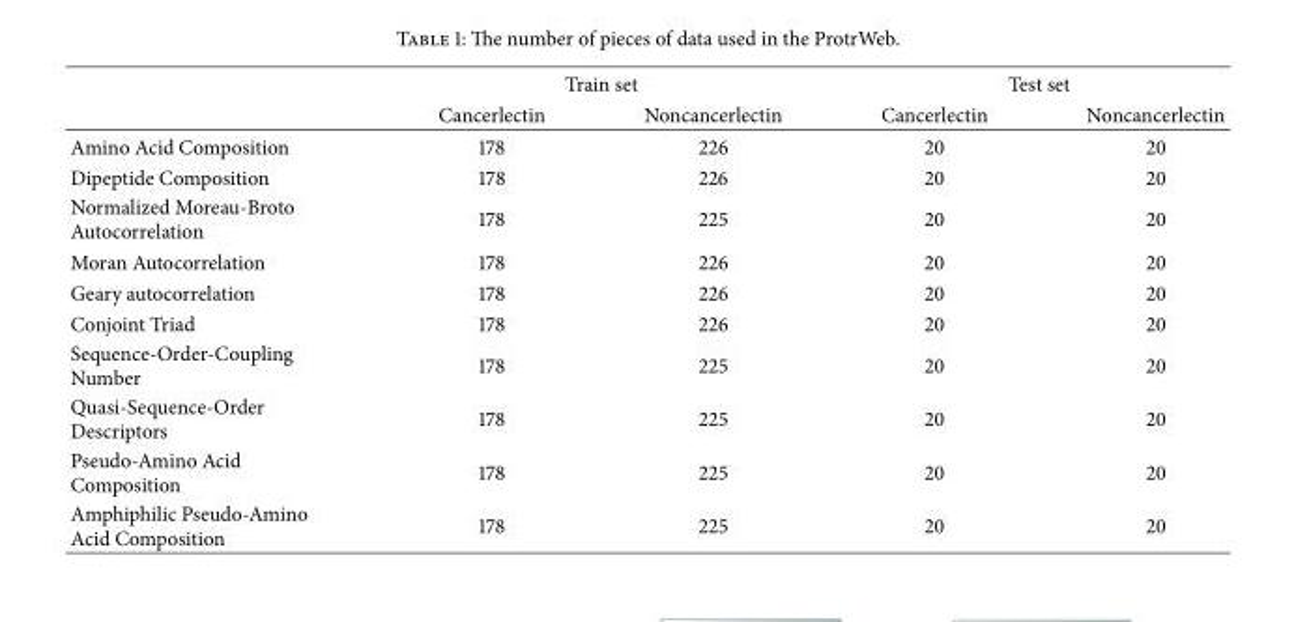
<table><thead><tr><td rowspan="2"></td><td colspan="2">Train set</td><td colspan="2">Test set</td></tr><tr><td>Cancerlectin</td><td>Noncancerlectin</td><td>Cancerlectin</td><td>Noncancerlectin</td></tr></thead><tbody><tr><td>Amino Acid Composition</td><td>178</td><td>226</td><td>20</td><td>20</td></tr><tr><td>Dipeptide Composition</td><td>178</td><td>226</td><td>20</td><td>20</td></tr><tr><td>Normalized Moreau-Broto Autocorrelation</td><td>178</td><td>225</td><td>20</td><td>20</td></tr><tr><td>Moran Autocorrelation</td><td>178</td><td>226</td><td>20</td><td>20</td></tr><tr><td>Geary autocorrelation</td><td>178</td><td>226</td><td>20</td><td>20</td></tr><tr><td>Conjoint Triad</td><td>178</td><td>226</td><td>20</td><td>20</td></tr><tr><td>Sequence-Order-Coupling Number</td><td>178</td><td>225</td><td>20</td><td>20</td></tr><tr><td>Quasi-Sequence-Order Descriptors</td><td>178</td><td>225</td><td>20</td><td>20</td></tr><tr><td>Pseudo-Amino Acid Composition</td><td>178</td><td>225</td><td>20</td><td>20</td></tr><tr><td>Amphiphilic Pseudo-Amino Acid Composition</td><td>178</td><td>225</td><td>20</td><td>20</td></tr></tbody></table>